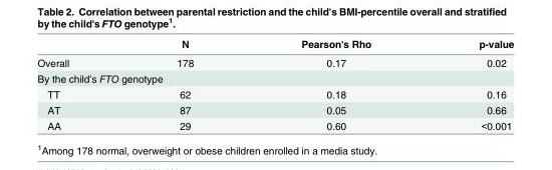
<table><thead><tr><td></td><td>N</td><td>Pearson&#x27;s Rho</td><td>p-value</td></tr></thead><tbody><tr><td>Overall</td><td>178</td><td>0.17</td><td>0.02</td></tr><tr><td colspan="4">By the child’s FTO genotype</td></tr><tr><td>TT</td><td>62</td><td>0.18</td><td>0.16</td></tr><tr><td>AT</td><td>87</td><td>0.05</td><td>0.66</td></tr><tr><td>AA</td><td>29</td><td>0.60</td><td>&lt;0.001</td></tr></tbody></table>